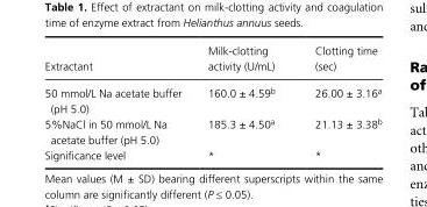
<table><thead><tr><td>Extractant</td><td>Milk- clotting activity (U/mL)</td><td>Clotting time (sec)</td></tr></thead><tbody><tr><td>50 mmol/L Na acetate buffer (pH 5.0)</td><td>160.0 ± 4.59<sup>b</sup></td><td>26.00 ± 3.16<sup>a</sup></td></tr><tr><td>5%NaCl in 50 mmol/L Na acetate buffer (pH 5.0)</td><td>185.3 ± 4.50<sup>a</sup></td><td>21.13 ± 3.38<sup>b</sup></td></tr><tr><td>Significance level</td><td>*</td><td>*</td></tr></tbody></table>